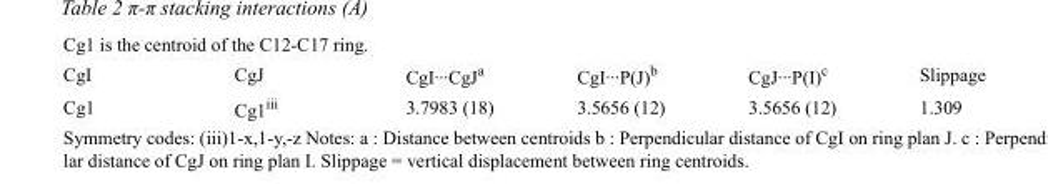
<table><tbody><tr><td>CgI</td><td>CgJ</td><td>CgI···CgJ<sup>a</sup></td><td>CgI···P(J)<sup>b</sup></td><td>CgJ···P(I)<sup>c</sup></td><td>Slippage</td></tr><tr><td>Cg1</td><td>Cg1<sup>iii</sup></td><td>3.7983 (18)</td><td>3.5656 (12)</td><td>3.5656 (12)</td><td>1.309</td></tr></tbody></table>